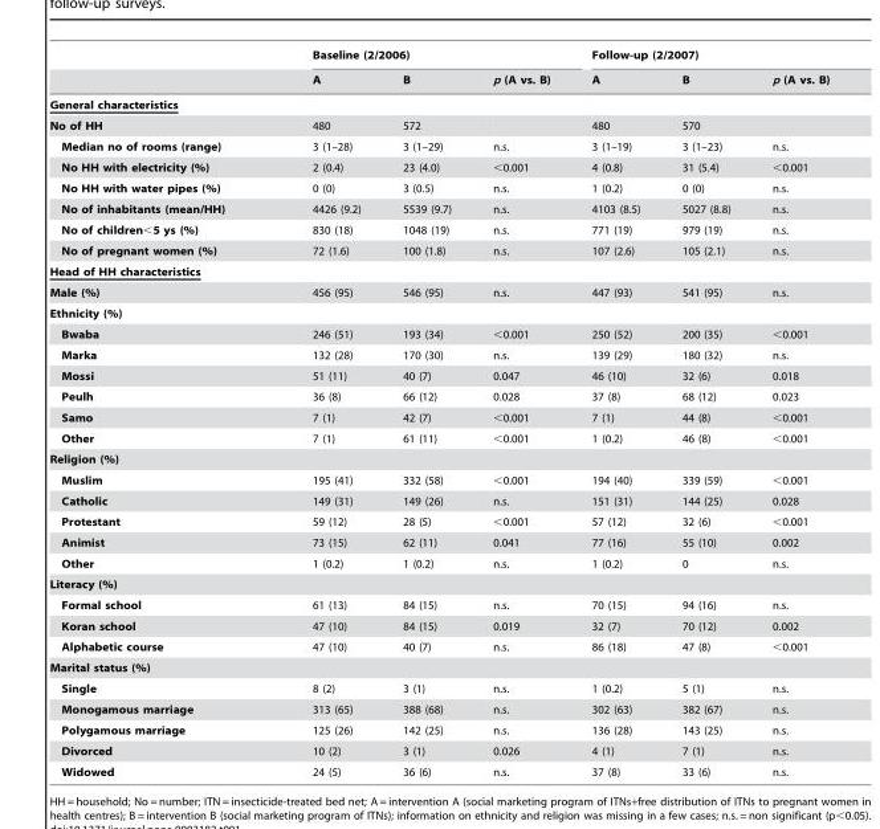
<table><thead><tr><td rowspan="2"></td><td colspan="3">Baseline (2/2006)</td><td colspan="3">Follow-up (2/2007)</td></tr><tr><td>A</td><td>B</td><td>p (A vs. B)</td><td>A</td><td>B</td><td>p (A vs. B)</td></tr></thead><tbody><tr><td colspan="7">General characteristics</td></tr><tr><td>No of HH</td><td>480</td><td>572</td><td></td><td>480</td><td>570</td><td></td></tr><tr><td>Median no of rooms (range)</td><td>3 (1–28)</td><td>3 (1–29)</td><td>n.s.</td><td>3 (1–19)</td><td>3 (1–23)</td><td>n.s.</td></tr><tr><td>No HH with electricity (%)</td><td>2 (0.4)</td><td>23 (4.0)</td><td>&lt;0.001</td><td>4 (0.8)</td><td>31 (5.4)</td><td>&lt;0.001</td></tr><tr><td>No HH with water pipes (%)</td><td>0 (0)</td><td>3 (0.5)</td><td>n.s.</td><td>1 (0.2)</td><td>0 (0)</td><td>n.s.</td></tr><tr><td>No of inhabitants (mean/HH)</td><td>4426 (9.2)</td><td>5539 (9.7)</td><td>n.s.</td><td>4103 (8.5)</td><td>5027 (8.8)</td><td>n.s.</td></tr><tr><td>No of children&lt;5 ys (%)</td><td>830 (18)</td><td>1048 (19)</td><td>n.s.</td><td>771 (19)</td><td>979 (19)</td><td>n.s.</td></tr><tr><td>No of pregnant women (%)</td><td>72 (1.6)</td><td>100 (1.8)</td><td>n.s.</td><td>107 (2.6)</td><td>105 (2.1)</td><td>n.s.</td></tr><tr><td colspan="7">Head of HH characteristics</td></tr><tr><td>Male (%)</td><td>456 (95)</td><td>546 (95)</td><td>n.s.</td><td>447 (93)</td><td>541 (95)</td><td>n.s.</td></tr><tr><td colspan="7">Ethnicity (%)</td></tr><tr><td>Bwaba</td><td>246 (51)</td><td>193 (34)</td><td>&lt;0.001</td><td>250 (52)</td><td>200 (35)</td><td>&lt;0.001</td></tr><tr><td>Marka</td><td>132 (28)</td><td>170 (30)</td><td>n.s.</td><td>139 (29)</td><td>180 (32)</td><td>n.s.</td></tr><tr><td>Mossi</td><td>51 (11)</td><td>40 (7)</td><td>0.047</td><td>46 (10)</td><td>32 (6)</td><td>0.018</td></tr><tr><td>Peulh</td><td>36 (8)</td><td>66 (12)</td><td>0.028</td><td>37 (8)</td><td>68 (12)</td><td>0.023</td></tr><tr><td>Samo</td><td>7 (1)</td><td>42 (7)</td><td>&lt;0.001</td><td>7 (1)</td><td>44 (8)</td><td>&lt;0.001</td></tr><tr><td>Other</td><td>7 (1)</td><td>61 (11)</td><td>&lt;0.001</td><td>1 (0.2)</td><td>46 (8)</td><td>&lt;0.001</td></tr><tr><td colspan="7">Religion (%)</td></tr><tr><td>Muslim</td><td>195 (41)</td><td>332 (58)</td><td>&lt;0.001</td><td>194 (40)</td><td>339 (59)</td><td>&lt;0.001</td></tr><tr><td>Catholic</td><td>149 (31)</td><td>149 (26)</td><td>n.s.</td><td>151 (31)</td><td>144 (25)</td><td>0.028</td></tr><tr><td>Protestant</td><td>59 (12)</td><td>28 (5)</td><td>&lt;0.001</td><td>57 (12)</td><td>32 (6)</td><td>&lt;0.001</td></tr><tr><td>Animist</td><td>73 (15)</td><td>62 (11)</td><td>0.041</td><td>77 (16)</td><td>55 (10)</td><td>0.002</td></tr><tr><td>Other</td><td>1 (0.2)</td><td>1 (0.2)</td><td>n.s.</td><td>1 (0.2)</td><td>0</td><td>n.s.</td></tr><tr><td colspan="7">Literacy (%)</td></tr><tr><td>Formal school</td><td>61 (13)</td><td>84 (15)</td><td>n.s.</td><td>70 (15)</td><td>94 (16)</td><td>n.s.</td></tr><tr><td>Koran school</td><td>47 (10)</td><td>84 (15)</td><td>0.019</td><td>32 (7)</td><td>70 (12)</td><td>0.002</td></tr><tr><td>Alphabetic course</td><td>47 (10)</td><td>40 (7)</td><td>n.s.</td><td>86 (18)</td><td>47 (8)</td><td>&lt;0.001</td></tr><tr><td colspan="7">Marital status (%)</td></tr><tr><td>Single</td><td>8 (2)</td><td>3 (1)</td><td>n.s.</td><td>1 (0.2)</td><td>5 (1)</td><td>n.s.</td></tr><tr><td>Monogamous marriage</td><td>313 (65)</td><td>388 (68)</td><td>n.s.</td><td>302 (63)</td><td>382 (67)</td><td>n.s.</td></tr><tr><td>Polygamous marriage</td><td>125 (26)</td><td>142 (25)</td><td>n.s.</td><td>136 (28)</td><td>143 (25)</td><td>n.s.</td></tr><tr><td>Divorced</td><td>10 (2)</td><td>3 (1)</td><td>0.026</td><td>4 (1)</td><td>7 (1)</td><td>n.s.</td></tr><tr><td>Widowed</td><td>24 (5)</td><td>36 (6)</td><td>n.s.</td><td>37 (8)</td><td>33 (6)</td><td>n.s.</td></tr></tbody></table>